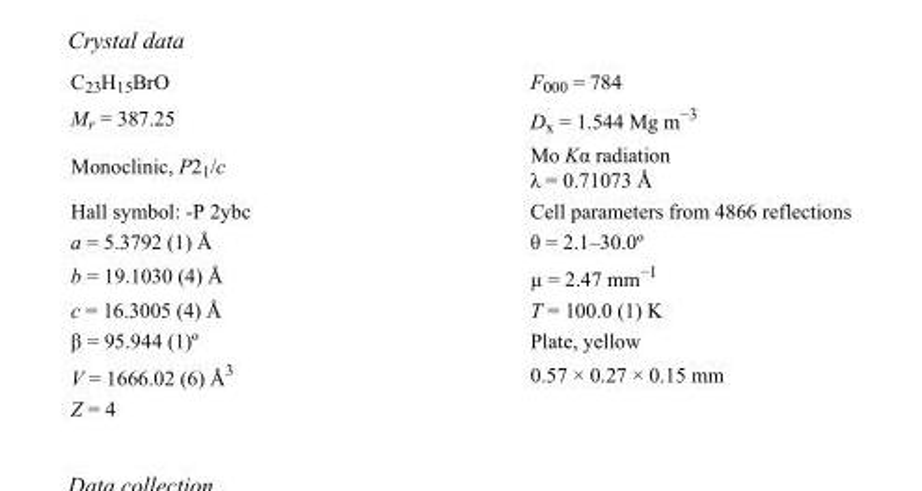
<table><tbody><tr><td>C<sub>23</sub>H<sub>15</sub>BrO</td><td>F000 = 784</td></tr><tr><td>M<sub>r</sub> = 387.25</td><td>D<sub>x</sub> = 1.544 Mg m<sup>−3</sup></td></tr><tr><td>Monoclinic, P2<sub>1</sub>/c</td><td>Mo Kα radiation λ = 0.71073 Å</td></tr><tr><td>Hall symbol: -P 2ybc</td><td>Cell parameters from 4866 reflections</td></tr><tr><td>a = 5.3792 (1) Å</td><td>θ = 2.1–30.0º</td></tr><tr><td>b = 19.1030 (4) Å</td><td>µ = 2.47 mm<sup>−1</sup></td></tr><tr><td>c = 16.3005 (4) Å</td><td>T = 100.0 (1) K</td></tr><tr><td>β = 95.944 (1)º</td><td>Plate, yellow</td></tr><tr><td>V = 1666.02 (6) Å<sup>3</sup></td><td>0.57 × 0.27 × 0.15 mm</td></tr><tr><td>Z = 4</td><td></td></tr></tbody></table>